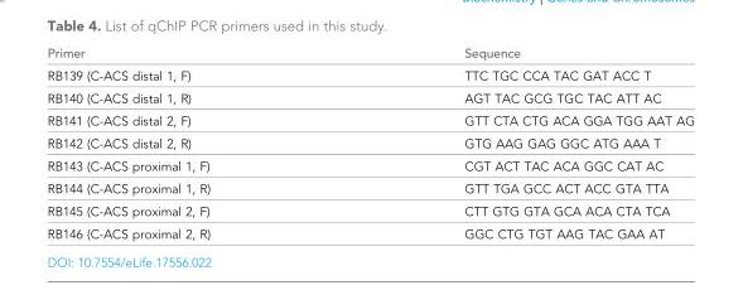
<table><thead><tr><td>Primer</td><td>Sequence</td></tr></thead><tbody><tr><td>RB139 (C-ACS distal 1, F)</td><td>TTC TGC CCA TAC GAT ACC T</td></tr><tr><td>RB140 (C-ACS distal 1, R)</td><td>AGT TAC GCG TGC TAC ATT AC</td></tr><tr><td>RB141 (C-ACS distal 2, F)</td><td>GTT CTA CTG ACA GGA TGG AAT AG</td></tr><tr><td>RB142 (C-ACS distal 2, R)</td><td>GTG AAG GAG GGC ATG AAA T</td></tr><tr><td>RB143 (C-ACS proximal 1, F)</td><td>CGT ACT TAC ACA GGC CAT AC</td></tr><tr><td>RB144 (C-ACS proximal 1, R)</td><td>GTT TGA GCC ACT ACC GTA TTA</td></tr><tr><td>RB145 (C-ACS proximal 2, F)</td><td>CTT GTG GTA GCA ACA CTA TCA</td></tr><tr><td>RB146 (C-ACS proximal 2, R)</td><td>GGC CTG TGT AAG TAC GAA AT</td></tr></tbody></table>